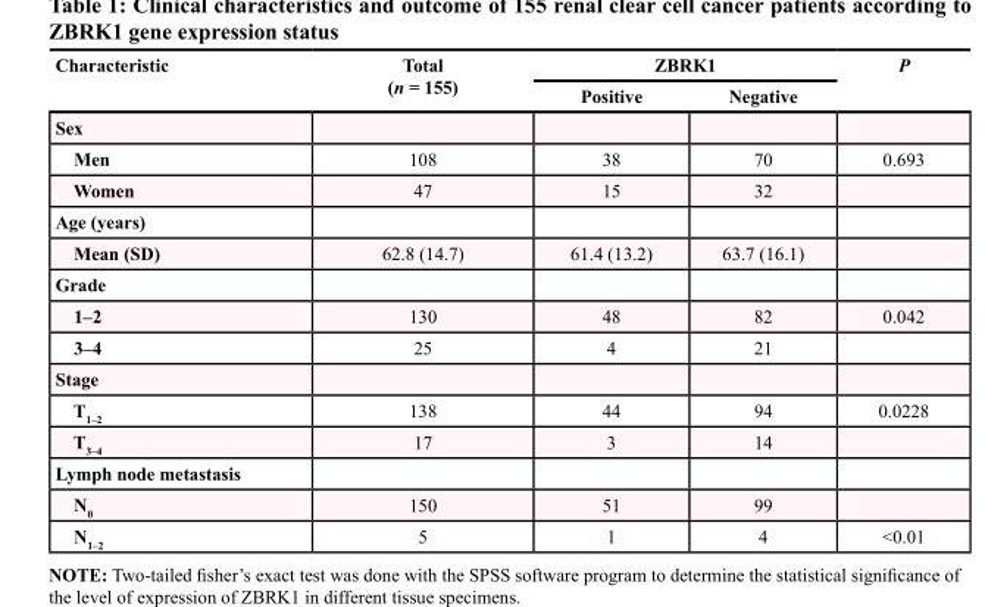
<table><thead><tr><td rowspan="2">Characteristic</td><td rowspan="2">Total (n = 155)</td><td colspan="2">ZBRK1</td><td rowspan="2">P</td></tr><tr><td>Positive</td><td>Negative</td></tr></thead><tbody><tr><td colspan="5">Sex</td></tr><tr><td>Men</td><td>108</td><td>38</td><td>70</td><td>0.693</td></tr><tr><td>Women</td><td>47</td><td>15</td><td>32</td><td></td></tr><tr><td colspan="5">Age (years)</td></tr><tr><td>Mean (SD)</td><td>62.8 (14.7)</td><td>61.4 (13.2)</td><td>63.7 (16.1)</td><td></td></tr><tr><td colspan="5">Grade</td></tr><tr><td>1–2</td><td>130</td><td>48</td><td>82</td><td>0.042</td></tr><tr><td>3–4</td><td>25</td><td>4</td><td>21</td><td></td></tr><tr><td colspan="5">Stage</td></tr><tr><td>T<sub>1–2</sub></td><td>138</td><td>44</td><td>94</td><td>0.0228</td></tr><tr><td>T<sub>3–4</sub></td><td>17</td><td>3</td><td>14</td><td></td></tr><tr><td colspan="5">Lymph node metastasis</td></tr><tr><td>N<sub>0</sub></td><td>150</td><td>51</td><td>99</td><td></td></tr><tr><td>N<sub>1–2</sub></td><td>5</td><td>1</td><td>4</td><td>&lt;0.01</td></tr></tbody></table>